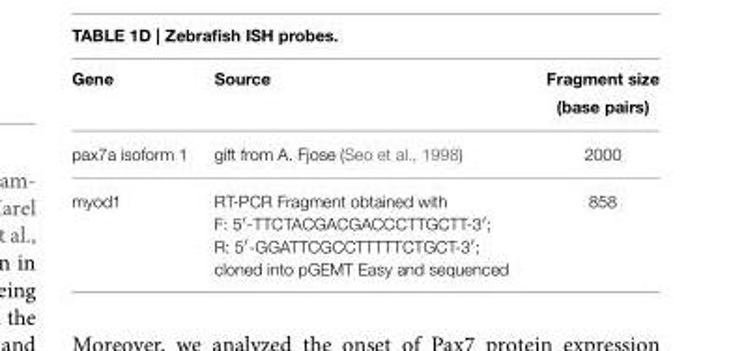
<table><thead><tr><td>Gene</td><td>Source</td><td>Fragment size (base pairs)</td></tr></thead><tbody><tr><td>pax7a isoform 1</td><td>gift from A. Fjose (Seo et al., 1998)</td><td>2000</td></tr><tr><td>myod1</td><td>RT-PCR Fragment obtained with F: 5′-TTCTACGACGACCCTTGCTT-3′; R: 5′-GGATTCGCCTTTTTCTGCT-3′; cloned into pGEMT Easy and sequenced</td><td>858</td></tr></tbody></table>